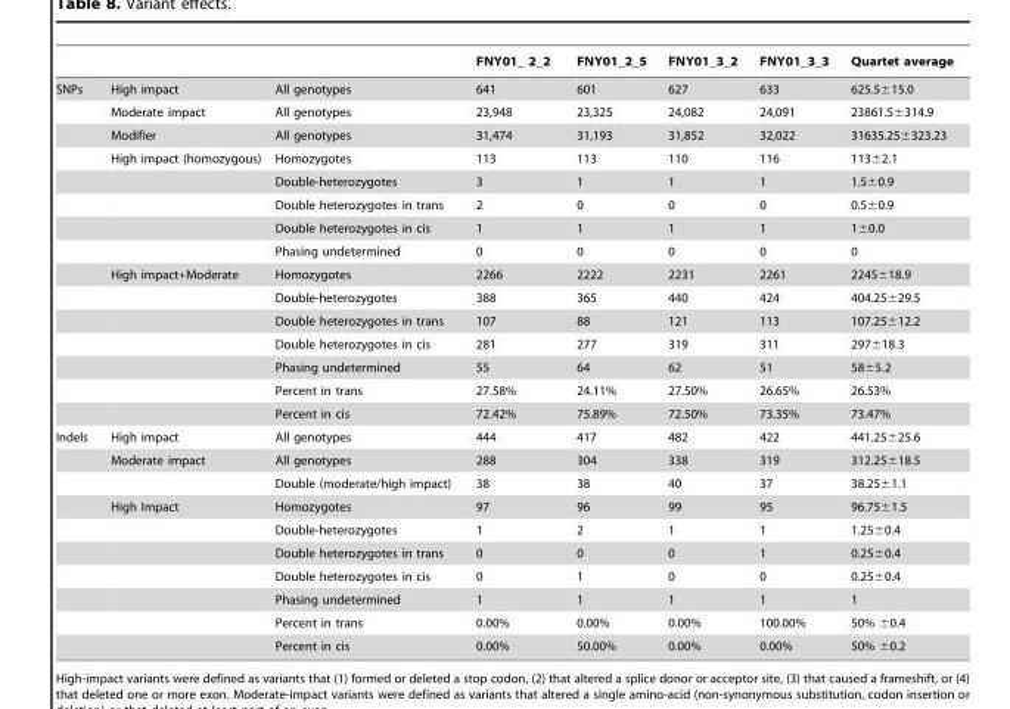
<table><thead><tr><td></td><td></td><td></td><td>FNY01_ 2_2</td><td>FNY01_2_5</td><td>FNY01_3_2</td><td>FNY01_3_3</td><td>Quartet average</td></tr></thead><tbody><tr><td rowspan="15">SNPs</td><td>High impact</td><td>All genotypes</td><td>641</td><td>601</td><td>627</td><td>633</td><td>625.5±15.0</td></tr><tr><td>Moderate impact</td><td>All genotypes</td><td>23,948</td><td>23,325</td><td>24,082</td><td>24,091</td><td>23861.5±314.9</td></tr><tr><td>Modifier</td><td>All genotypes</td><td>31,474</td><td>31,193</td><td>31,852</td><td>32,022</td><td>31635.25±323.23</td></tr><tr><td>High impact (homozygous)</td><td>Homozygotes</td><td>113</td><td>113</td><td>110</td><td>116</td><td>113±2.1</td></tr><tr><td></td><td>Double-heterozygotes</td><td>3</td><td>1</td><td>1</td><td>1</td><td>1.5±0.9</td></tr><tr><td></td><td>Double heterozygotes in trans</td><td>2</td><td>0</td><td>0</td><td>0</td><td>0.5±0.9</td></tr><tr><td></td><td>Double heterozygotes in cis</td><td>1</td><td>1</td><td>1</td><td>1</td><td>1±0.0</td></tr><tr><td></td><td>Phasing undetermined</td><td>0</td><td>0</td><td>0</td><td>0</td><td>0</td></tr><tr><td>High impact+Moderate</td><td>Homozygotes</td><td>2266</td><td>2222</td><td>2231</td><td>2261</td><td>2245±18.9</td></tr><tr><td></td><td>Double-heterozygotes</td><td>388</td><td>365</td><td>440</td><td>424</td><td>404.25±29.5</td></tr><tr><td></td><td>Double heterozygotes in trans</td><td>107</td><td>88</td><td>121</td><td>113</td><td>107.25±12.2</td></tr><tr><td></td><td>Double heterozygotes in cis</td><td>281</td><td>277</td><td>319</td><td>311</td><td>297±18.3</td></tr><tr><td></td><td>Phasing undetermined</td><td>55</td><td>64</td><td>62</td><td>51</td><td>58±5.2</td></tr><tr><td></td><td>Percent in trans</td><td>27.58%</td><td>24.11%</td><td>27.50%</td><td>26.65%</td><td>26.53%</td></tr><tr><td></td><td>Percent in cis</td><td>72.42%</td><td>75.89%</td><td>72.50%</td><td>73.35%</td><td>73.47%</td></tr><tr><td rowspan="10">Indels</td><td>High impact</td><td>All genotypes</td><td>444</td><td>417</td><td>482</td><td>422</td><td>441.25±25.6</td></tr><tr><td>Moderate impact</td><td>All genotypes</td><td>288</td><td>304</td><td>338</td><td>319</td><td>312.25±18.5</td></tr><tr><td></td><td>Double (moderate/high impact)</td><td>38</td><td>38</td><td>40</td><td>37</td><td>38.25±1.1</td></tr><tr><td>High Impact</td><td>Homozygotes</td><td>97</td><td>96</td><td>99</td><td>95</td><td>96.75±1.5</td></tr><tr><td></td><td>Double-heterozygotes</td><td>1</td><td>2</td><td>1</td><td>1</td><td>1.25±0.4</td></tr><tr><td></td><td>Double heterozygotes in trans</td><td>0</td><td>0</td><td>0</td><td>1</td><td>0.25±0.4</td></tr><tr><td></td><td>Double heterozygotes in cis</td><td>0</td><td>1</td><td>0</td><td>0</td><td>0.25±0.4</td></tr><tr><td></td><td>Phasing undetermined</td><td>1</td><td>1</td><td>1</td><td>1</td><td>1</td></tr><tr><td></td><td>Percent in trans</td><td>0.00%</td><td>0.00%</td><td>0.00%</td><td>100.00%</td><td>50% ±0.4</td></tr><tr><td></td><td>Percent in cis</td><td>0.00%</td><td>50.00%</td><td>0.00%</td><td>0.00%</td><td>50% ±0.2</td></tr></tbody></table>